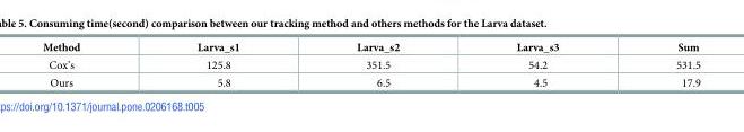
<table><thead><tr><td>Method</td><td>Larva_s1</td><td>Larva_s2</td><td>Larva_s3</td><td>Sum</td></tr></thead><tbody><tr><td>Cox’s</td><td>125.8</td><td>351.5</td><td>54.2</td><td>531.5</td></tr><tr><td>Ours</td><td>5.8</td><td>6.5</td><td>4.5</td><td>17.9</td></tr></tbody></table>